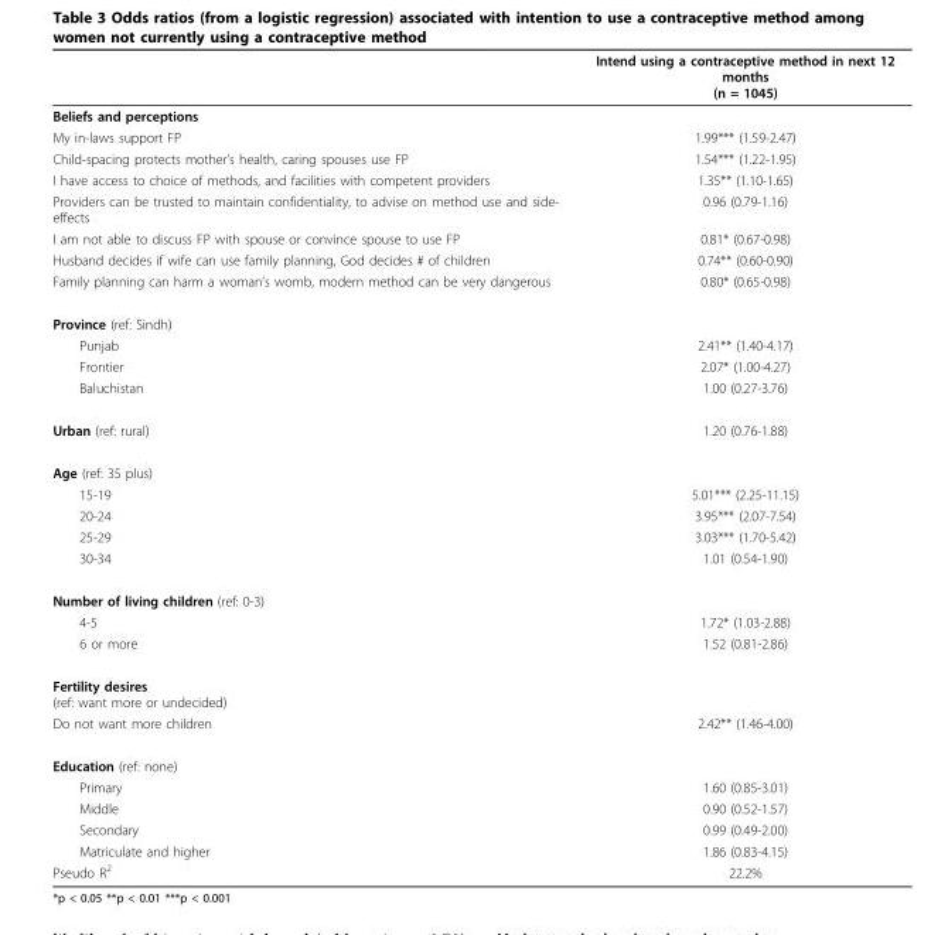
<table><thead><tr><td></td><td>Intend using a contraceptive method in next 12 months (n = 1045)</td></tr></thead><tbody><tr><td colspan="2">Beliefs and perceptions</td></tr><tr><td>My in-laws support FP</td><td>1.99*** (1.59-2.47)</td></tr><tr><td>Child-spacing protects mother’s health, caring spouses use FP</td><td>1.54*** (1.22-1.95)</td></tr><tr><td>I have access to choice of methods, and facilities with competent providers</td><td>1.35** (1.10-1.65)</td></tr><tr><td>Providers can be trusted to maintain confidentiality, to advise on method use and side- effects</td><td>0.96 (0.79-1.16)</td></tr><tr><td>I am not able to discuss FP with spouse or convince spouse to use FP</td><td>0.81* (0.67-0.98)</td></tr><tr><td>Husband decides if wife can use family planning, God decides # of children</td><td>0.74** (0.60-0.90)</td></tr><tr><td>Family planning can harm a woman’s womb, modern method can be very dangerous</td><td>0.80* (0.65-0.98)</td></tr><tr><td colspan="2">Province (ref: Sindh)</td></tr><tr><td>Punjab</td><td>2.41** (1.40-4.17)</td></tr><tr><td>Frontier</td><td>2.07* (1.00-4.27)</td></tr><tr><td>Baluchistan</td><td>1.00 (0.27-3.76)</td></tr><tr><td>Urban (ref: rural)</td><td>1.20 (0.76-1.88)</td></tr><tr><td colspan="2">Age (ref: 35 plus)</td></tr><tr><td>15-19</td><td>5.01*** (2.25-11.15)</td></tr><tr><td>20-24</td><td>3.95*** (2.07-7.54)</td></tr><tr><td>25-29</td><td>3.03*** (1.70-5.42)</td></tr><tr><td>30-34</td><td>1.01 (0.54-1.90)</td></tr><tr><td colspan="2">Number of living children (ref: 0-3)</td></tr><tr><td>4-5</td><td>1.72* (1.03-2.88)</td></tr><tr><td>6 or more</td><td>1.52 (0.81-2.86)</td></tr><tr><td colspan="2">Fertility desires (ref: want more or undecided)</td></tr><tr><td>Do not want more children</td><td>2.42** (1.46-4.00)</td></tr><tr><td colspan="2">Education (ref: none)</td></tr><tr><td>Primary</td><td>1.60 (0.85-3.01)</td></tr><tr><td>Middle</td><td>0.90 (0.52-1.57)</td></tr><tr><td>Secondary</td><td>0.99 (0.49-2.00)</td></tr><tr><td>Matriculate and higher</td><td>1.86 (0.83-4.15)</td></tr><tr><td>Pseudo R<sup>2</sup></td><td>22.2%</td></tr></tbody></table>